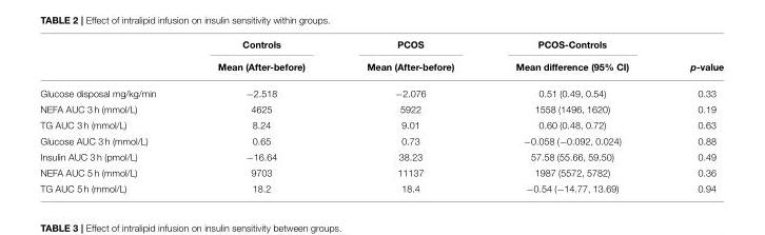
<table><thead><tr><td rowspan="2"></td><td rowspan="2">Controls Mean (After-before)</td><td rowspan="2">PCOS Mean (After-before)</td><td rowspan="2">PCOS-Controls Mean difference (95% CI)</td><td rowspan="2">p-value</td></tr><tr></tr></thead><tbody><tr><td>Glucose disposal mg/kg/min</td><td>−2.518</td><td>−2.076</td><td>0.51 (0.49, 0.54)</td><td>0.33</td></tr><tr><td>NEFA AUC 3 h (mmol/L)</td><td>4625</td><td>5922</td><td>1558 (1496, 1620)</td><td>0.19</td></tr><tr><td>TG AUC 3 h (mmol/L)</td><td>8.24</td><td>9.01</td><td>0.60 (0.48, 0.72)</td><td>0.63</td></tr><tr><td>Glucose AUC 3 h (mmol/L)</td><td>0.65</td><td>0.73</td><td>−0.058 (−0.092, 0.024)</td><td>0.88</td></tr><tr><td>Insulin AUC 3 h (pmol/L)</td><td>−16.64</td><td>38.23</td><td>57.58 (55.66, 59.50)</td><td>0.49</td></tr><tr><td>NEFA AUC 5 h (mmol/L)</td><td>9703</td><td>11137</td><td>1987 (5572, 5782)</td><td>0.36</td></tr><tr><td>TG AUC 5 h (mmol/L)</td><td>18.2</td><td>18.4</td><td>−0.54 (−14.77, 13.69)</td><td>0.94</td></tr></tbody></table>